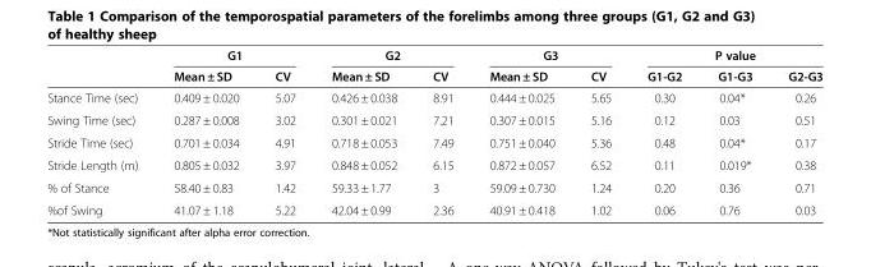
<table><thead><tr><td rowspan="2"></td><td colspan="2">G1</td><td colspan="2">G2</td><td colspan="2">G3</td><td colspan="3">P value</td></tr><tr><td>Mean ± SD</td><td>CV</td><td>Mean ± SD</td><td>CV</td><td>Mean ± SD</td><td>CV</td><td>G1-G2</td><td>G1-G3</td><td>G2-G3</td></tr></thead><tbody><tr><td>Stance Time (sec)</td><td>0.409 ± 0.020</td><td>5.07</td><td>0.426 ± 0.038</td><td>8.91</td><td>0.444 ± 0.025</td><td>5.65</td><td>0.30</td><td>0.04*</td><td>0.26</td></tr><tr><td>Swing Time (sec)</td><td>0.287 ± 0.008</td><td>3.02</td><td>0.301 ± 0.021</td><td>7.21</td><td>0.307 ± 0.015</td><td>5.16</td><td>0.12</td><td>0.03</td><td>0.51</td></tr><tr><td>Stride Time (sec)</td><td>0.701 ± 0.034</td><td>4.91</td><td>0.718 ± 0.053</td><td>7.49</td><td>0.751 ± 0.040</td><td>5.36</td><td>0.48</td><td>0.04*</td><td>0.17</td></tr><tr><td>Stride Length (m)</td><td>0.805 ± 0.032</td><td>3.97</td><td>0.848 ± 0.052</td><td>6.15</td><td>0.872 ± 0.057</td><td>6.52</td><td>0.11</td><td>0.019*</td><td>0.38</td></tr><tr><td>% of Stance</td><td>58.40 ± 0.83</td><td>1.42</td><td>59.33 ± 1.77</td><td>3</td><td>59.09 ± 0.730</td><td>1.24</td><td>0.20</td><td>0.36</td><td>0.71</td></tr><tr><td>%of Swing</td><td>41.07 ± 1.18</td><td>5.22</td><td>42.04 ± 0.99</td><td>2.36</td><td>40.91 ± 0.418</td><td>1.02</td><td>0.06</td><td>0.76</td><td>0.03</td></tr></tbody></table>